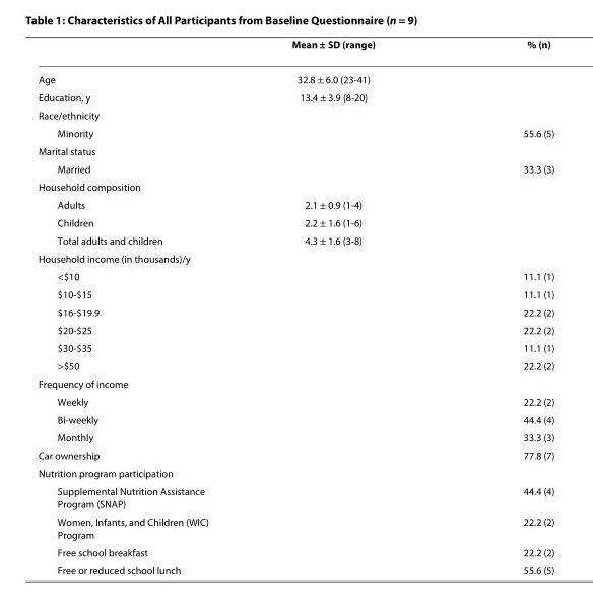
<table><thead><tr><td></td><td>Mean ± SD (range)</td><td>% (n)</td></tr></thead><tbody><tr><td>Age</td><td>32.8 ± 6.0 (23-41)</td><td></td></tr><tr><td>Education, y</td><td>13.4 ± 3.9 (8-20)</td><td></td></tr><tr><td colspan="3">Race/ethnicity</td></tr><tr><td>Minority</td><td></td><td>55.6 (5)</td></tr><tr><td colspan="3">Marital status</td></tr><tr><td>Married</td><td></td><td>33.3 (3)</td></tr><tr><td colspan="3">Household composition</td></tr><tr><td>Adults</td><td>2.1 ± 0.9 (1-4)</td><td></td></tr><tr><td>Children</td><td>2.2 ± 1.6 (1-6)</td><td></td></tr><tr><td>Total adults and children</td><td>4.3 ± 1.6 (3-8)</td><td></td></tr><tr><td colspan="3">Household income (in thousands)/y</td></tr><tr><td>&lt;$10</td><td></td><td>11.1 (1)</td></tr><tr><td>$10-$15</td><td></td><td>11.1 (1)</td></tr><tr><td>$16-$19.9</td><td></td><td>22.2 (2)</td></tr><tr><td>$20-$25</td><td></td><td>22.2 (2)</td></tr><tr><td>$30-$35</td><td></td><td>11.1 (1)</td></tr><tr><td>&gt;$50</td><td></td><td>22.2 (2)</td></tr><tr><td colspan="3">Frequency of income</td></tr><tr><td>Weekly</td><td></td><td>22.2 (2)</td></tr><tr><td>Bi-weekly</td><td></td><td>44.4 (4)</td></tr><tr><td>Monthly</td><td></td><td>33.3 (3)</td></tr><tr><td>Car ownership</td><td></td><td>77.8 (7)</td></tr><tr><td colspan="3">Nutrition program participation</td></tr><tr><td>Supplemental Nutrition Assistance Program (SNAP)</td><td></td><td>44.4 (4)</td></tr><tr><td>Women, Infants, and Children (WIC) Program</td><td></td><td>22.2 (2)</td></tr><tr><td>Free school breakfast</td><td></td><td>22.2 (2)</td></tr><tr><td>Free or reduced school lunch</td><td></td><td>55.6 (5)</td></tr></tbody></table>